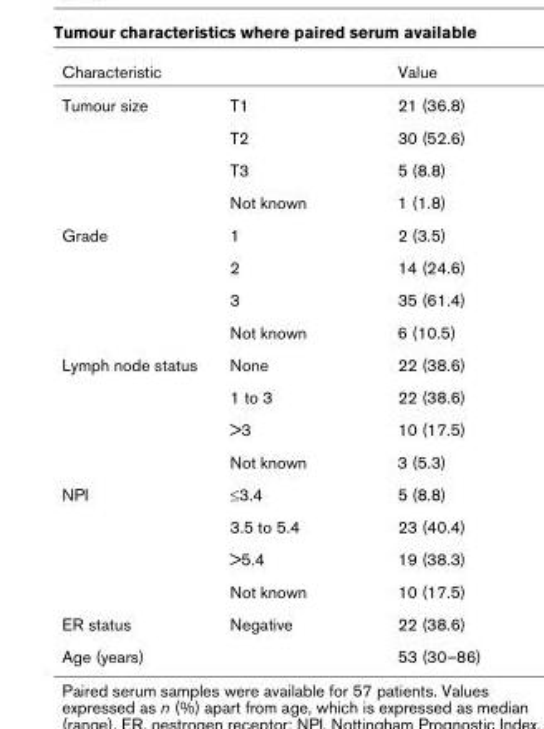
<table><thead><tr><td>Characteristic</td><td></td><td>Value</td></tr></thead><tbody><tr><td rowspan="4">Tumour size</td><td>T1</td><td>21 (36.8)</td></tr><tr><td>T2</td><td>30 (52.6)</td></tr><tr><td>T3</td><td>5 (8.8)</td></tr><tr><td>Not known</td><td>1 (1.8)</td></tr><tr><td rowspan="4">Grade</td><td>1</td><td>2 (3.5)</td></tr><tr><td>2</td><td>14 (24.6)</td></tr><tr><td>3</td><td>35 (61.4)</td></tr><tr><td>Not known</td><td>6 (10.5)</td></tr><tr><td rowspan="4">Lymph node status</td><td>None</td><td>22 (38.6)</td></tr><tr><td>1 to 3</td><td>22 (38.6)</td></tr><tr><td>&gt;3</td><td>10 (17.5)</td></tr><tr><td>Not known</td><td>3 (5.3)</td></tr><tr><td rowspan="4">NPI</td><td>≤3.4</td><td>5 (8.8)</td></tr><tr><td>3.5 to 5.4</td><td>23 (40.4)</td></tr><tr><td>&gt;5.4</td><td>19 (38.3)</td></tr><tr><td>Not known</td><td>10 (17.5)</td></tr><tr><td>ER status</td><td>Negative</td><td>22 (38.6)</td></tr><tr><td>Age (years)</td><td></td><td>53 (30–86)</td></tr></tbody></table>